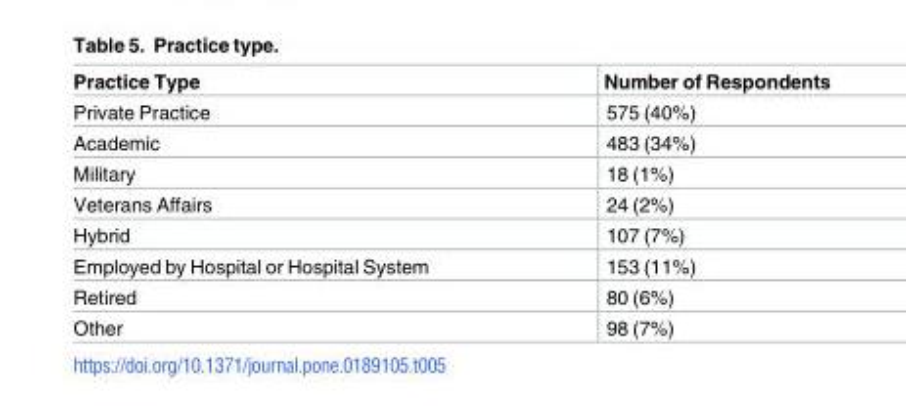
<table><thead><tr><td>Practice Type</td><td>Number of Respondents</td></tr></thead><tbody><tr><td>Private Practice</td><td>575 (40%)</td></tr><tr><td>Academic</td><td>483 (34%)</td></tr><tr><td>Military</td><td>18 (1%)</td></tr><tr><td>Veterans Affairs</td><td>24 (2%)</td></tr><tr><td>Hybrid</td><td>107 (7%)</td></tr><tr><td>Employed by Hospital or Hospital System</td><td>153 (11%)</td></tr><tr><td>Retired</td><td>80 (6%)</td></tr><tr><td>Other</td><td>98 (7%)</td></tr></tbody></table>